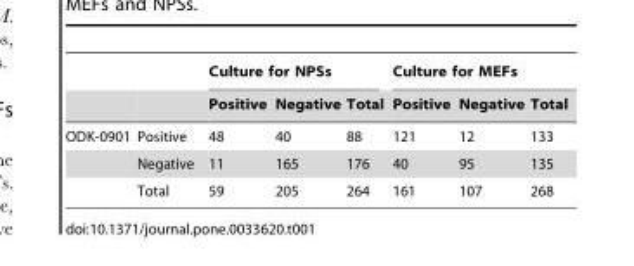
<table><thead><tr><td rowspan="2"></td><td rowspan="2"></td><td colspan="3">Culture for NPSs</td><td colspan="3">Culture for MEFs</td></tr><tr><td>Positive</td><td>Negative</td><td>Total</td><td>Positive</td><td>Negative</td><td>Total</td></tr></thead><tbody><tr><td rowspan="3">ODK-0901</td><td>Positive</td><td>48</td><td>40</td><td>88</td><td>121</td><td>12</td><td>133</td></tr><tr><td>Negative</td><td>11</td><td>165</td><td>176</td><td>40</td><td>95</td><td>135</td></tr><tr><td>Total</td><td>59</td><td>205</td><td>264</td><td>161</td><td>107</td><td>268</td></tr></tbody></table>